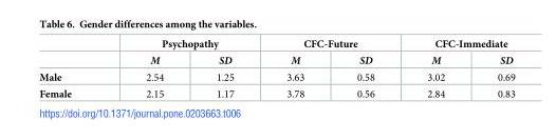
<table><thead><tr><td rowspan="2"></td><td colspan="2">Psychopathy</td><td colspan="2">CFC-Future</td><td colspan="2">CFC-Immediate</td></tr><tr><td>M</td><td>SD</td><td>M</td><td>SD</td><td>M</td><td>SD</td></tr></thead><tbody><tr><td>Male</td><td>2.54</td><td>1.25</td><td>3.63</td><td>0.58</td><td>3.02</td><td>0.69</td></tr><tr><td>Female</td><td>2.15</td><td>1.17</td><td>3.78</td><td>0.56</td><td>2.84</td><td>0.83</td></tr></tbody></table>